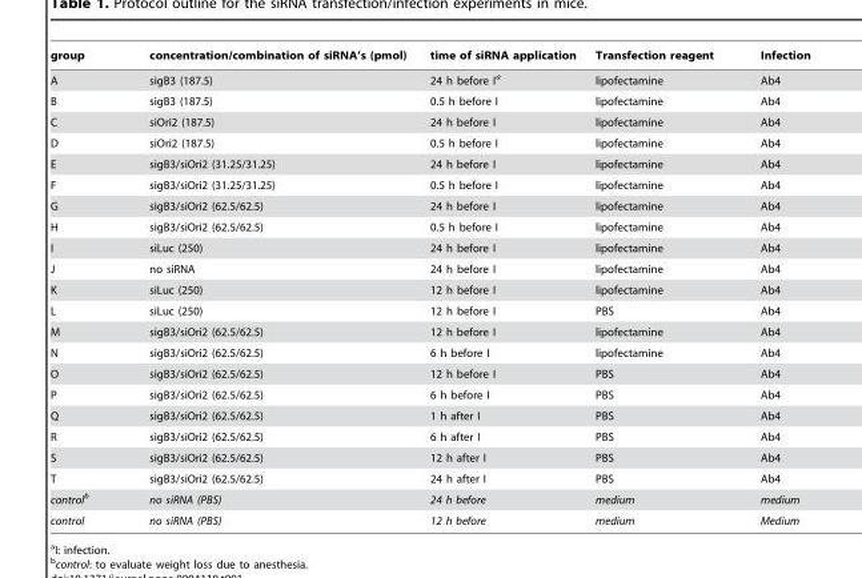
<table><thead><tr><td>group</td><td>concentration/combination of siRNA’s (pmol)</td><td>time of siRNA application</td><td>Transfection reagent</td><td>Infection</td></tr></thead><tbody><tr><td>A</td><td>sigB3 (187.5)</td><td>24 h before I<sup>a</sup></td><td>lipofectamine</td><td>Ab4</td></tr><tr><td>B</td><td>sigB3 (187.5)</td><td>0.5 h before I</td><td>lipofectamine</td><td>Ab4</td></tr><tr><td>C</td><td>siOri2 (187.5)</td><td>24 h before I</td><td>lipofectamine</td><td>Ab4</td></tr><tr><td>D</td><td>siOri2 (187.5)</td><td>0.5 h before I</td><td>lipofectamine</td><td>Ab4</td></tr><tr><td>E</td><td>sigB3/siOri2 (31.25/31.25)</td><td>24 h before I</td><td>lipofectamine</td><td>Ab4</td></tr><tr><td>F</td><td>sigB3/siOri2 (31.25/31.25)</td><td>0.5 h before I</td><td>lipofectamine</td><td>Ab4</td></tr><tr><td>G</td><td>sigB3/siOri2 (62.5/62.5)</td><td>24 h before I</td><td>lipofectamine</td><td>Ab4</td></tr><tr><td>H</td><td>sigB3/siOri2 (62.5/62.5)</td><td>0.5 h before I</td><td>lipofectamine</td><td>Ab4</td></tr><tr><td>I</td><td>siLuc (250)</td><td>24 h before I</td><td>lipofectamine</td><td>Ab4</td></tr><tr><td>J</td><td>no siRNA</td><td>24 h before I</td><td>lipofectamine</td><td>Ab4</td></tr><tr><td>K</td><td>siLuc (250)</td><td>12 h before I</td><td>lipofectamine</td><td>Ab4</td></tr><tr><td>L</td><td>siLuc (250)</td><td>12 h before I</td><td>PBS</td><td>Ab4</td></tr><tr><td>M</td><td>sigB3/siOri2 (62.5/62.5)</td><td>12 h before I</td><td>lipofectamine</td><td>Ab4</td></tr><tr><td>N</td><td>sigB3/siOri2 (62.5/62.5)</td><td>6 h before I</td><td>lipofectamine</td><td>Ab4</td></tr><tr><td>O</td><td>sigB3/siOri2 (62.5/62.5)</td><td>12 h before I</td><td>PBS</td><td>Ab4</td></tr><tr><td>P</td><td>sigB3/siOri2 (62.5/62.5)</td><td>6 h before I</td><td>PBS</td><td>Ab4</td></tr><tr><td>Q</td><td>sigB3/siOri2 (62.5/62.5)</td><td>1 h after I</td><td>PBS</td><td>Ab4</td></tr><tr><td>R</td><td>sigB3/siOri2 (62.5/62.5)</td><td>6 h after I</td><td>PBS</td><td>Ab4</td></tr><tr><td>S</td><td>sigB3/siOri2 (62.5/62.5)</td><td>12 h after I</td><td>PBS</td><td>Ab4</td></tr><tr><td>T</td><td>sigB3/siOri2 (62.5/62.5)</td><td>24 h after I</td><td>PBS</td><td>Ab4</td></tr><tr><td>controlb</td><td>no siRNA (PBS)</td><td>24 h before</td><td>medium</td><td>medium</td></tr><tr><td>control</td><td>no siRNA (PBS)</td><td>12 h before</td><td>medium</td><td>Medium</td></tr></tbody></table>